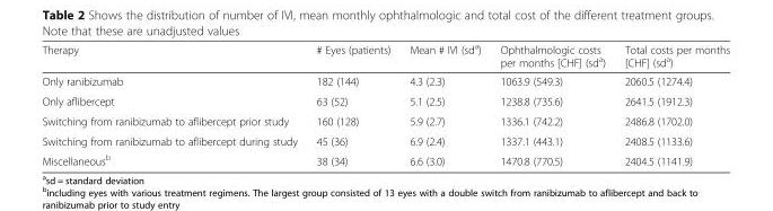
<table><thead><tr><td>Therapy</td><td># Eyes (patients)</td><td>Mean # IVI (sd<sup>a</sup>)</td><td>Ophthalmologic costs per months [CHF] (sd<sup>a</sup>)</td><td>Total costs per months [CHF] (sd<sup>a</sup>)</td></tr></thead><tbody><tr><td>Only ranibizumab</td><td>182 (144)</td><td>4.3 (2.3)</td><td>1063.9 (549.3)</td><td>2060.5 (1274.4)</td></tr><tr><td>Only aflibercept</td><td>63 (52)</td><td>5.1 (2.5)</td><td>1238.8 (735.6)</td><td>2641.5 (1912.3)</td></tr><tr><td>Switching from ranibizumab to aflibercept prior study</td><td>160 (128)</td><td>5.9 (2.7)</td><td>1336.1 (742.2)</td><td>2486.8 (1702.0)</td></tr><tr><td>Switching from ranibizumab to aflibercept during study</td><td>45 (36)</td><td>6.9 (2.4)</td><td>1337.1 (443.1)</td><td>2408.5 (1133.6)</td></tr><tr><td>Miscellaneous<sup>b</sup></td><td>38 (34)</td><td>6.6 (3.0)</td><td>1470.8 (770.5)</td><td>2404.5 (1141.9)</td></tr></tbody></table>